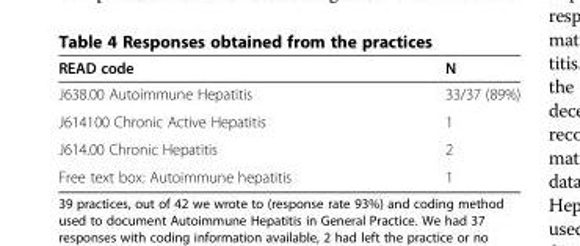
<table><thead><tr><td>READ code</td><td>N</td></tr></thead><tbody><tr><td>J638.00 Autoimmune Hepatitis</td><td>33/37 (89%)</td></tr><tr><td>J614100 Chronic Active Hepatitis</td><td>1</td></tr><tr><td>J614.00 Chronic Hepatitis</td><td>2</td></tr><tr><td>Free text box: Autoimmune hepatitis</td><td>1</td></tr></tbody></table>